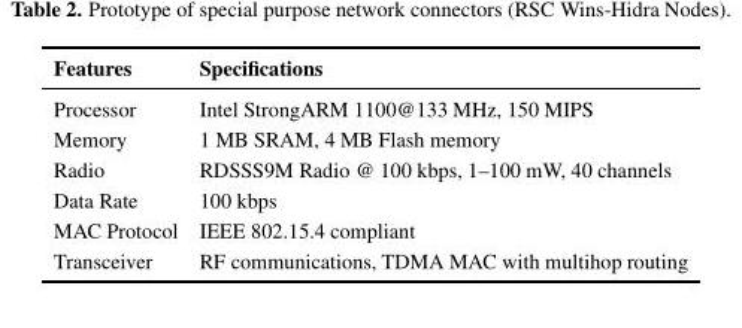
<table><thead><tr><td>Features</td><td>Specifications</td></tr></thead><tbody><tr><td>Processor</td><td>Intel StrongARM 1100@133 MHz, 150 MIPS</td></tr><tr><td>Memory</td><td>1 MB SRAM, 4 MB Flash memory</td></tr><tr><td>Radio</td><td>RDSSS9M Radio @ 100 kbps, 1–100 mW, 40 channels</td></tr><tr><td>Data Rate</td><td>100 kbps</td></tr><tr><td>MAC Protocol</td><td>IEEE 802.15.4 compliant</td></tr><tr><td>Transceiver</td><td>RF communications, TDMA MAC with multihop routing</td></tr></tbody></table>